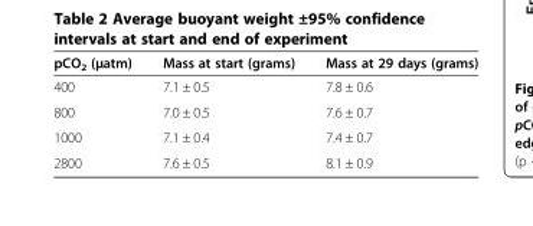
<table><thead><tr><td>pCO<sub>2</sub> (μatm)</td><td>Mass at start (grams)</td><td>Mass at 29 days (grams)</td></tr></thead><tbody><tr><td>400</td><td>7.1 ± 0.5</td><td>7.8 ± 0.6</td></tr><tr><td>800</td><td>7.0 ± 0.5</td><td>7.6 ± 0.7</td></tr><tr><td>1000</td><td>7.1 ± 0.4</td><td>7.4 ± 0.7</td></tr><tr><td>2800</td><td>7.6 ± 0.5</td><td>8.1 ± 0.9</td></tr></tbody></table>